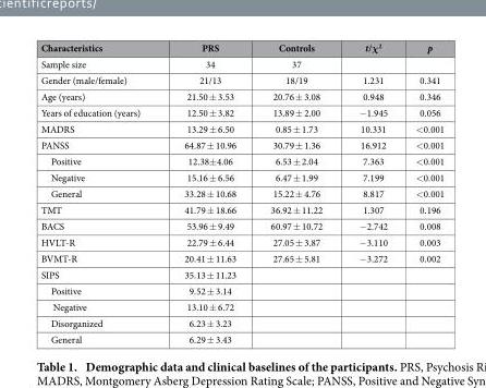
<table><thead><tr><td>Characteristics</td><td>PRS</td><td>Controls</td><td>t/χ<sup>2</sup></td><td>p</td></tr></thead><tbody><tr><td>Sample size</td><td>34</td><td>37</td><td></td><td></td></tr><tr><td>Gender (male/female)</td><td>21/13</td><td>18/19</td><td>1.231</td><td>0.341</td></tr><tr><td>Age (years)</td><td>21.50 ± 3.53</td><td>20.76 ± 3.08</td><td>0.948</td><td>0.346</td></tr><tr><td>Years of education (years)</td><td>12.50 ± 3.82</td><td>13.89 ± 2.00</td><td>− 1.945</td><td>0.056</td></tr><tr><td>MADRS</td><td>13.29 ± 6.50</td><td>0.85 ± 1.73</td><td>10.331</td><td>&lt; 0.001</td></tr><tr><td>PANSS</td><td>64.87 ± 10.96</td><td>30.79 ± 1.36</td><td>16.912</td><td>&lt; 0.001</td></tr><tr><td>Positive</td><td>12.38± 4.06</td><td>6.53 ± 2.04</td><td>7.363</td><td>&lt; 0.001</td></tr><tr><td>Negative</td><td>15.16 ± 6.56</td><td>6.47 ± 1.99</td><td>7.199</td><td>&lt; 0.001</td></tr><tr><td>General</td><td>33.28 ± 10.68</td><td>15.22 ± 4.76</td><td>8.817</td><td>&lt; 0.001</td></tr><tr><td>TMT</td><td>41.79 ± 18.66</td><td>36.92 ± 11.22</td><td>1.307</td><td>0.196</td></tr><tr><td>BACS</td><td>53.96 ± 9.49</td><td>60.97 ± 10.72</td><td>− 2.742</td><td>0.008</td></tr><tr><td>HVLT-R</td><td>22.79 ± 6.44</td><td>27.05 ± 3.87</td><td>− 3.110</td><td>0.003</td></tr><tr><td>BVMT-R</td><td>20.41 ± 11.63</td><td>27.65 ± 5.81</td><td>− 3.272</td><td>0.002</td></tr><tr><td>SIPS</td><td>35.13 ± 11.23</td><td></td><td></td><td></td></tr><tr><td>Positive</td><td>9.52 ± 3.14</td><td></td><td></td><td></td></tr><tr><td>Negative</td><td>13.10 ± 6.72</td><td></td><td></td><td></td></tr><tr><td>Disorganized</td><td>6.23 ± 3.23</td><td></td><td></td><td></td></tr><tr><td>General</td><td>6.29 ± 3.43</td><td></td><td></td><td></td></tr></tbody></table>